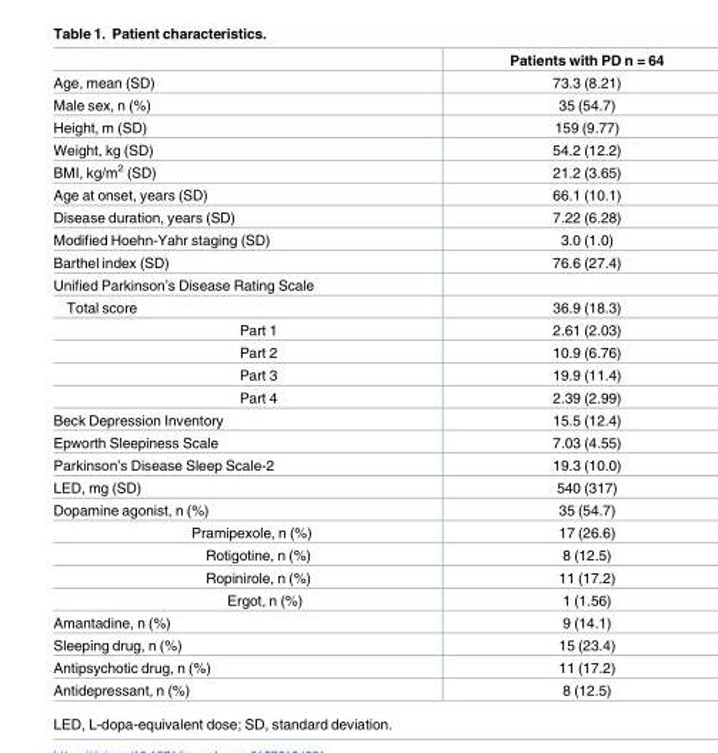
<table><thead><tr><td></td><td>Patients with PD n = 64</td></tr></thead><tbody><tr><td>Age, mean (SD)</td><td>73.3 (8.21)</td></tr><tr><td>Male sex, n (%)</td><td>35 (54.7)</td></tr><tr><td>Height, m (SD)</td><td>159 (9.77)</td></tr><tr><td>Weight, kg (SD)</td><td>54.2 (12.2)</td></tr><tr><td>BMI, kg/m<sup>2</sup> (SD)</td><td>21.2 (3.65)</td></tr><tr><td>Age at onset, years (SD)</td><td>66.1 (10.1)</td></tr><tr><td>Disease duration, years (SD)</td><td>7.22 (6.28)</td></tr><tr><td>Modified Hoehn-Yahr staging (SD)</td><td>3.0 (1.0)</td></tr><tr><td>Barthel index (SD)</td><td>76.6 (27.4)</td></tr><tr><td colspan="2">Unified Parkinson’s Disease Rating Scale</td></tr><tr><td>Total score</td><td>36.9 (18.3)</td></tr><tr><td>Part 1</td><td>2.61 (2.03)</td></tr><tr><td>Part 2</td><td>10.9 (6.76)</td></tr><tr><td>Part 3</td><td>19.9 (11.4)</td></tr><tr><td>Part 4</td><td>2.39 (2.99)</td></tr><tr><td>Beck Depression Inventory</td><td>15.5 (12.4)</td></tr><tr><td>Epworth Sleepiness Scale</td><td>7.03 (4.55)</td></tr><tr><td>Parkinson’s Disease Sleep Scale-2</td><td>19.3 (10.0)</td></tr><tr><td>LED, mg (SD)</td><td>540 (317)</td></tr><tr><td>Dopamine agonist, n (%)</td><td>35 (54.7)</td></tr><tr><td>Pramipexole, n (%)</td><td>17 (26.6)</td></tr><tr><td>Rotigotine, n (%)</td><td>8 (12.5)</td></tr><tr><td>Ropinirole, n (%)</td><td>11 (17.2)</td></tr><tr><td>Ergot, n (%)</td><td>1 (1.56)</td></tr><tr><td>Amantadine, n (%)</td><td>9 (14.1)</td></tr><tr><td>Sleeping drug, n (%)</td><td>15 (23.4)</td></tr><tr><td>Antipsychotic drug, n (%)</td><td>11 (17.2)</td></tr><tr><td>Antidepressant, n (%)</td><td>8 (12.5)</td></tr></tbody></table>